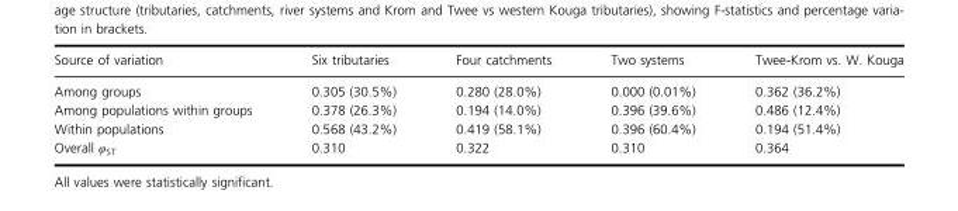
<table><thead><tr><td>Source of variation</td><td>Six tributaries</td><td>Four catchments</td><td>Two systems</td><td>Twee-Krom vs. W. Kouga</td></tr></thead><tbody><tr><td>Among groups</td><td>0.305 (30.5%)</td><td>0.280 (28.0%)</td><td>0.000 (0.01%)</td><td>0.362 (36.2%)</td></tr><tr><td>Among populations within groups</td><td>0.378 (26.3%)</td><td>0.194 (14.0%)</td><td>0.396 (39.6%)</td><td>0.486 (12.4%)</td></tr><tr><td>Within populations</td><td>0.568 (43.2%)</td><td>0.419 (58.1%)</td><td>0.396 (60.4%)</td><td>0.194 (51.4%)</td></tr><tr><td>Overall φ<sub>ST</sub></td><td>0.310</td><td>0.322</td><td>0.310</td><td>0.364</td></tr></tbody></table>